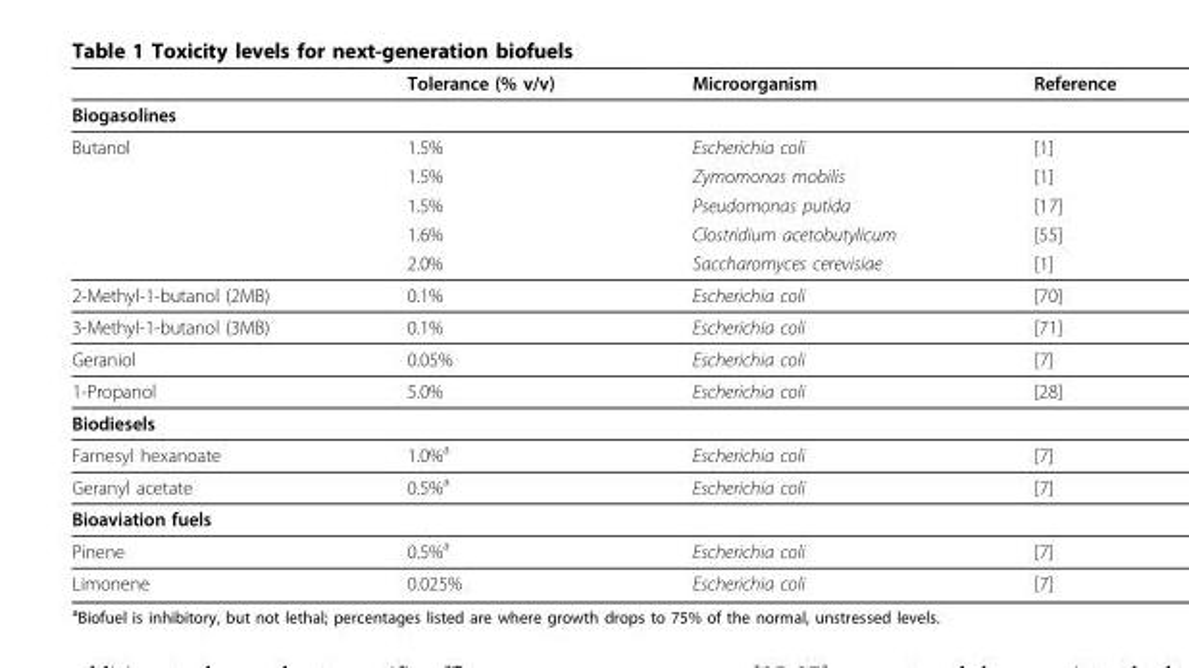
<table><thead><tr><td></td><td>Tolerance (% v/v)</td><td>Microorganism</td><td>Reference</td></tr></thead><tbody><tr><td colspan="4">Biogasolines</td></tr><tr><td rowspan="5">Butanol</td><td>1.5%</td><td>Escherichia coli</td><td>[1]</td></tr><tr><td>1.5%</td><td>Zymomonas mobilis</td><td>[1]</td></tr><tr><td>1.5%</td><td>Pseudomonas putida</td><td>[17]</td></tr><tr><td>1.6%</td><td>Clostridium acetobutylicum</td><td>[55]</td></tr><tr><td>2.0%</td><td>Saccharomyces cerevisiae</td><td>[1]</td></tr><tr><td>2-Methyl-1-butanol (2MB)</td><td>0.1%</td><td>Escherichia coli</td><td>[70]</td></tr><tr><td>3-Methyl-1-butanol (3MB)</td><td>0.1%</td><td>Escherichia coli</td><td>[71]</td></tr><tr><td>Geraniol</td><td>0.05%</td><td>Escherichia coli</td><td>[7]</td></tr><tr><td>1-Propanol</td><td>5.0%</td><td>Escherichia coli</td><td>[28]</td></tr><tr><td colspan="4">Biodiesels</td></tr><tr><td>Farnesyl hexanoate</td><td>1.0%<sup>a</sup></td><td>Escherichia coli</td><td>[7]</td></tr><tr><td>Geranyl acetate</td><td>0.5%<sup>a</sup></td><td>Escherichia coli</td><td>[7]</td></tr><tr><td colspan="4">Bioaviation fuels</td></tr><tr><td>Pinene</td><td>0.5%<sup>a</sup></td><td>Escherichia coli</td><td>[7]</td></tr><tr><td>Limonene</td><td>0.025%</td><td>Escherichia coli</td><td>[7]</td></tr></tbody></table>